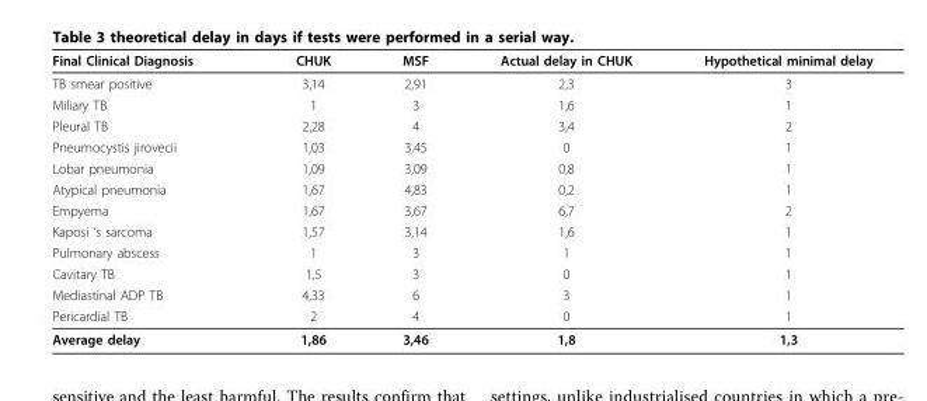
<table><thead><tr><td>Final Clinical Diagnosis</td><td>CHUK</td><td>MSF</td><td>Actual delay in CHUK</td><td>Hypothetical minimal delay</td></tr></thead><tbody><tr><td>TB smear positive</td><td>3,14</td><td>2,91</td><td>2,3</td><td>3</td></tr><tr><td>Miliary TB</td><td>1</td><td>3</td><td>1,6</td><td>1</td></tr><tr><td>Pleural TB</td><td>2,28</td><td>4</td><td>3,4</td><td>2</td></tr><tr><td>Pneumocystis jirovecii</td><td>1,03</td><td>3,45</td><td>0</td><td>1</td></tr><tr><td>Lobar pneumonia</td><td>1,09</td><td>3,09</td><td>0,8</td><td>1</td></tr><tr><td>Atypical pneumonia</td><td>1,67</td><td>4,83</td><td>0,2</td><td>1</td></tr><tr><td>Empyema</td><td>1,67</td><td>3,67</td><td>6,7</td><td>2</td></tr><tr><td>Kaposi ‘s sarcoma</td><td>1,57</td><td>3,14</td><td>1,6</td><td>1</td></tr><tr><td>Pulmonary abscess</td><td>1</td><td>3</td><td>1</td><td>1</td></tr><tr><td>Cavitary TB</td><td>1,5</td><td>3</td><td>0</td><td>1</td></tr><tr><td>Mediastinal ADP TB</td><td>4,33</td><td>6</td><td>3</td><td>1</td></tr><tr><td>Pericardial TB</td><td>2</td><td>4</td><td>0</td><td>1</td></tr><tr><td>Average delay</td><td>1,86</td><td>3,46</td><td>1,8</td><td>1,3</td></tr></tbody></table>